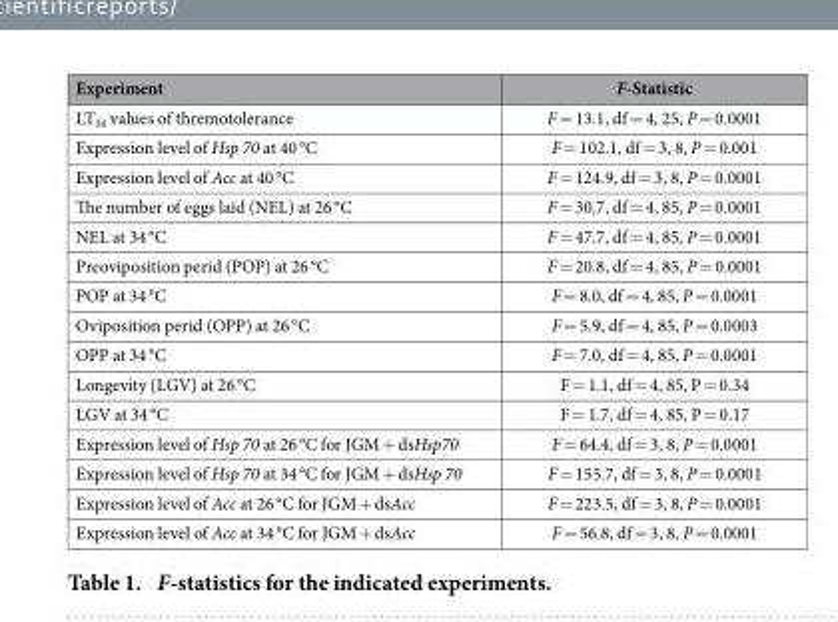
<table><thead><tr><td>Experiment</td><td>F-Statistic</td></tr></thead><tbody><tr><td>LT<sub>50</sub> values of thremotolerance</td><td>F = 13.1, df = 4, 25, P = 0.0001</td></tr><tr><td>Expression level of Hsp 70 at 40 °C</td><td>F = 102.1, df = 3, 8, P = 0.001</td></tr><tr><td>Expression level of Acc at 40 °C</td><td>F = 124.9, df = 3, 8, P = 0.0001</td></tr><tr><td>The number of eggs laid (NEL) at 26 °C</td><td>F = 30.7, df = 4, 85, P = 0.0001</td></tr><tr><td>NEL at 34 °C</td><td>F = 47.7, df = 4, 85, P = 0.0001</td></tr><tr><td>Preoviposition perid (POP) at 26 °C</td><td>F = 20.8, df = 4, 85, P = 0.0001</td></tr><tr><td>POP at 34 °C</td><td>F = 8.0, df = 4, 85, P = 0.0001</td></tr><tr><td>Oviposition perid (OPP) at 26 °C</td><td>F = 5.9, df = 4, 85, P = 0.0003</td></tr><tr><td>OPP at 34 °C</td><td>F = 7.0, df = 4, 85, P = 0.0001</td></tr><tr><td>Longevity (LGV) at 26 °C</td><td>F = 1.1, df = 4, 85, P = 0.34</td></tr><tr><td>LGV at 34 °C</td><td>F = 1.7, df = 4, 85, P = 0.17</td></tr><tr><td>Expression level of Hsp 70 at 26 °C for JGM + dsHsp70</td><td>F = 64.4, df = 3, 8, P = 0.0001</td></tr><tr><td>Expression level of Hsp 70 at 34 °C for JGM + dsHsp 70</td><td>F = 155.7, df = 3, 8, P = 0.0001</td></tr><tr><td>Expression level of Acc at 26 °C for JGM + dsAcc</td><td>F = 223.5, df = 3, 8, P = 0.0001</td></tr><tr><td>Expression level of Acc at 34 °C for JGM + dsAcc</td><td>F = 56.8, df = 3, 8, P = 0.0001</td></tr></tbody></table>